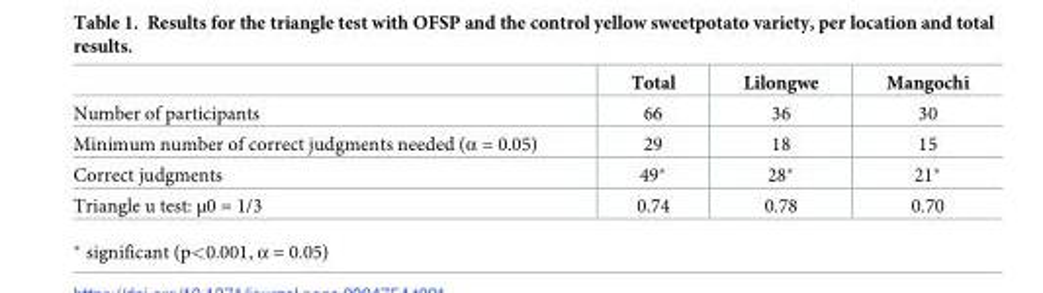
<table><thead><tr><td></td><td>Total</td><td>Lilongwe</td><td>Mangochi</td></tr></thead><tbody><tr><td>Number of participants</td><td>66</td><td>36</td><td>30</td></tr><tr><td>Minimum number of correct judgments needed (α = 0.05)</td><td>29</td><td>18</td><td>15</td></tr><tr><td>Correct judgments</td><td>49*</td><td>28*</td><td>21*</td></tr><tr><td>Triangle u test: μ0 = 1/3</td><td>0.74</td><td>0.78</td><td>0.70</td></tr></tbody></table>